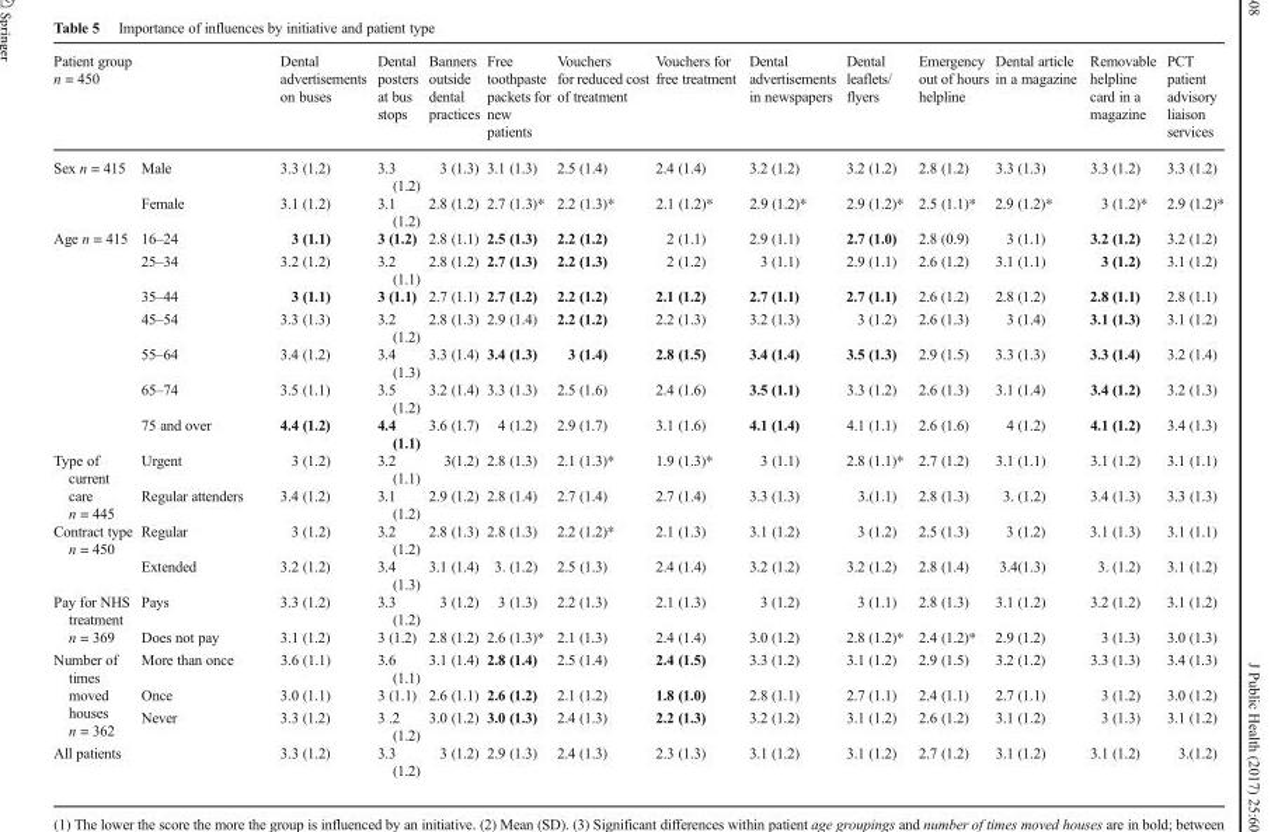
<table><thead><tr><td>Patient group n = 450</td><td></td><td>Dental advertisements on buses</td><td>Dental posters at bus stops</td><td>Banners outside dental practices</td><td>Free toothpaste packets for new patients</td><td>Vouchers for reduced cost of treatment</td><td>Vouchers for free treatment</td><td>Dental advertisements in newspapers</td><td>Dental leaflets/ flyers</td><td>Emergency out of hours helpline</td><td>Dental article in a magazine</td><td>Removable helpline card in a magazine</td><td>PCT patient advisory liaison services</td></tr></thead><tbody><tr><td rowspan="2">Sex n = 415</td><td>Male</td><td>3.3 (1.2)</td><td>3.3 (1.2)</td><td>3 (1.3)</td><td>3.1 (1.3)</td><td>2.5 (1.4)</td><td>2.4 (1.4)</td><td>3.2 (1.2)</td><td>3.2 (1.2)</td><td>2.8 (1.2)</td><td>3.3 (1.3)</td><td>3.3 (1.2)</td><td>3.3 (1.2)</td></tr><tr><td>Female</td><td>3.1 (1.2)</td><td>3.1 (1.2)</td><td>2.8 (1.2)</td><td>2.7 (1.3)*</td><td>2.2 (1.3)*</td><td>2.1 (1.2)*</td><td>2.9 (1.2)*</td><td>2.9 (1.2)*</td><td>2.5 (1.1)*</td><td>2.9 (1.2)*</td><td>3 (1.2)*</td><td>2.9 (1.2)*</td></tr><tr><td rowspan="7">Age n = 415</td><td>16–24</td><td>3 (1.1)</td><td>3 (1.2)</td><td>2.8 (1.1)</td><td>2.5 (1.3)</td><td>2.2 (1.2)</td><td>2 (1.1)</td><td>2.9 (1.1)</td><td>2.7 (1.0)</td><td>2.8 (0.9)</td><td>3 (1.1)</td><td>3.2 (1.2)</td><td>3.2 (1.2)</td></tr><tr><td>25–34</td><td>3.2 (1.2)</td><td>3.2 (1.1)</td><td>2.8 (1.2)</td><td>2.7 (1.3)</td><td>2.2 (1.3)</td><td>2 (1.2)</td><td>3 (1.1)</td><td>2.9 (1.1)</td><td>2.6 (1.2)</td><td>3.1 (1.1)</td><td>3 (1.2)</td><td>3.1 (1.2)</td></tr><tr><td>35–44</td><td>3 (1.1)</td><td>3 (1.1)</td><td>2.7 (1.1)</td><td>2.7 (1.2)</td><td>2.2 (1.2)</td><td>2.1 (1.2)</td><td>2.7 (1.1)</td><td>2.7 (1.1)</td><td>2.6 (1.2)</td><td>2.8 (1.2)</td><td>2.8 (1.1)</td><td>2.8 (1.1)</td></tr><tr><td>45–54</td><td>3.3 (1.3)</td><td>3.2 (1.2)</td><td>2.8 (1.3)</td><td>2.9 (1.4)</td><td>2.2 (1.2)</td><td>2.2 (1.3)</td><td>3.2 (1.3)</td><td>3 (1.2)</td><td>2.6 (1.3)</td><td>3 (1.4)</td><td>3.1 (1.3)</td><td>3.1 (1.2)</td></tr><tr><td>55–64</td><td>3.4 (1.2)</td><td>3.4 (1.3)</td><td>3.3 (1.4)</td><td>3.4 (1.3)</td><td>3 (1.4)</td><td>2.8 (1.5)</td><td>3.4 (1.4)</td><td>3.5 (1.3)</td><td>2.9 (1.5)</td><td>3.3 (1.3)</td><td>3.3 (1.4)</td><td>3.2 (1.4)</td></tr><tr><td>65–74</td><td>3.5 (1.1)</td><td>3.5 (1.2)</td><td>3.2 (1.4)</td><td>3.3 (1.3)</td><td>2.5 (1.6)</td><td>2.4 (1.6)</td><td>3.5 (1.1)</td><td>3.3 (1.2)</td><td>2.6 (1.3)</td><td>3.1 (1.4)</td><td>3.4 (1.2)</td><td>3.2 (1.3)</td></tr><tr><td>75 and over</td><td>4.4 (1.2)</td><td>4.4 (1.1)</td><td>3.6 (1.7)</td><td>4 (1.2)</td><td>2.9 (1.7)</td><td>3.1 (1.6)</td><td>4.1 (1.4)</td><td>4.1 (1.1)</td><td>2.6 (1.6)</td><td>4 (1.2)</td><td>4.1 (1.2)</td><td>3.4 (1.3)</td></tr><tr><td rowspan="2">Type of current care n = 445</td><td>Urgent</td><td>3 (1.2)</td><td>3.2 (1.1)</td><td>3(1.2)</td><td>2.8 (1.3)</td><td>2.1 (1.3)*</td><td>1.9 (1.3)*</td><td>3 (1.1)</td><td>2.8 (1.1)*</td><td>2.7 (1.2)</td><td>3.1 (1.1)</td><td>3.1 (1.2)</td><td>3.1 (1.1)</td></tr><tr><td>Regular attenders</td><td>3.4 (1.2)</td><td>3.1 (1.2)</td><td>2.9 (1.2)</td><td>2.8 (1.4)</td><td>2.7 (1.4)</td><td>2.7 (1.4)</td><td>3.3 (1.3)</td><td>3.(1.1)</td><td>2.8 (1.3)</td><td>3. (1.2)</td><td>3.4 (1.3)</td><td>3.3 (1.3)</td></tr><tr><td rowspan="2">Contract type n = 450</td><td>Regular</td><td>3 (1.2)</td><td>3.2 (1.2)</td><td>2.8 (1.3)</td><td>2.8 (1.3)</td><td>2.2 (1.2)*</td><td>2.1 (1.3)</td><td>3.1 (1.2)</td><td>3 (1.2)</td><td>2.5 (1.3)</td><td>3 (1.2)</td><td>3.1 (1.3)</td><td>3.1 (1.1)</td></tr><tr><td>Extended</td><td>3.2 (1.2)</td><td>3.4 (1.3)</td><td>3.1 (1.4)</td><td>3. (1.2)</td><td>2.5 (1.3)</td><td>2.4 (1.4)</td><td>3.2 (1.2)</td><td>3.2 (1.2)</td><td>2.8 (1.4)</td><td>3.4(1.3)</td><td>3. (1.2)</td><td>3.1 (1.2)</td></tr><tr><td rowspan="2">Pay for NHS treatment n = 369</td><td>Pays</td><td>3.3 (1.2)</td><td>3.3 (1.2)</td><td>3 (1.2)</td><td>3 (1.3)</td><td>2.2 (1.3)</td><td>2.1 (1.3)</td><td>3 (1.2)</td><td>3 (1.1)</td><td>2.8 (1.3)</td><td>3.1 (1.2)</td><td>3.2 (1.2)</td><td>3.1 (1.2)</td></tr><tr><td>Does not pay</td><td>3.1 (1.2)</td><td>3 (1.2)</td><td>2.8 (1.2)</td><td>2.6 (1.3)*</td><td>2.1 (1.3)</td><td>2.4 (1.4)</td><td>3.0 (1.2)</td><td>2.8 (1.2)*</td><td>2.4 (1.2)*</td><td>2.9 (1.2)</td><td>3 (1.3)</td><td>3.0 (1.3)</td></tr><tr><td rowspan="3">Number of times moved houses n = 362</td><td>More than once</td><td>3.6 (1.1)</td><td>3.6 (1.1)</td><td>3.1 (1.4)</td><td>2.8 (1.4)</td><td>2.5 (1.4)</td><td>2.4 (1.5)</td><td>3.3 (1.2)</td><td>3.1 (1.2)</td><td>2.9 (1.5)</td><td>3.2 (1.2)</td><td>3.3 (1.3)</td><td>3.4 (1.3)</td></tr><tr><td>Once</td><td>3.0 (1.1)</td><td>3 (1.1)</td><td>2.6 (1.1)</td><td>2.6 (1.2)</td><td>2.1 (1.2)</td><td>1.8 (1.0)</td><td>2.8 (1.1)</td><td>2.7 (1.1)</td><td>2.4 (1.1)</td><td>2.7 (1.1)</td><td>3 (1.2)</td><td>3.0 (1.2)</td></tr><tr><td>Never</td><td>3.3 (1.2)</td><td>3 .2 (1.2)</td><td>3.0 (1.2)</td><td>3.0 (1.3)</td><td>2.4 (1.3)</td><td>2.2 (1.3)</td><td>3.2 (1.2)</td><td>3.1 (1.2)</td><td>2.6 (1.2)</td><td>3.1 (1.2)</td><td>3 (1.3)</td><td>3.1 (1.2)</td></tr><tr><td>All patients</td><td></td><td>3.3 (1.2)</td><td>3.3 (1.2)</td><td>3 (1.2)</td><td>2.9 (1.3)</td><td>2.4 (1.3)</td><td>2.3 (1.3)</td><td>3.1 (1.2)</td><td>3.1 (1.2)</td><td>2.7 (1.2)</td><td>3.1 (1.2)</td><td>3.1 (1.2)</td><td>3.(1.2)</td></tr></tbody></table>